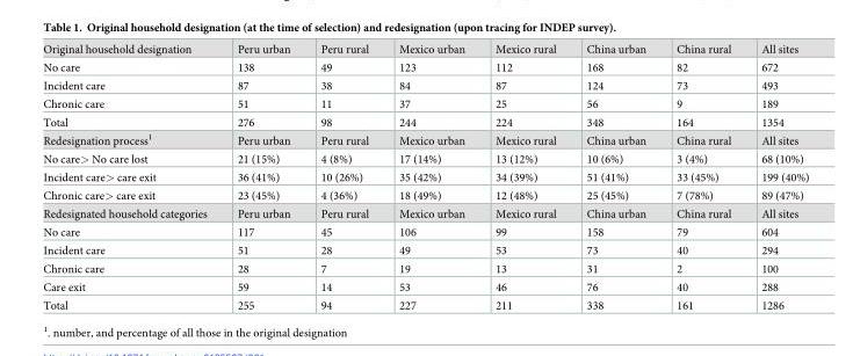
<table><tbody><tr><td>Original household designation</td><td>Peru urban</td><td>Peru rural</td><td>Mexico urban</td><td>Mexico rural</td><td>China urban</td><td>China rural</td><td>All sites</td></tr><tr><td>No care</td><td>138</td><td>49</td><td>123</td><td>112</td><td>168</td><td>82</td><td>672</td></tr><tr><td>Incident care</td><td>87</td><td>38</td><td>84</td><td>87</td><td>124</td><td>73</td><td>493</td></tr><tr><td>Chronic care</td><td>51</td><td>11</td><td>37</td><td>25</td><td>56</td><td>9</td><td>189</td></tr><tr><td>Total</td><td>276</td><td>98</td><td>244</td><td>224</td><td>348</td><td>164</td><td>1354</td></tr><tr><td>Redesignation process<sup>1</sup></td><td>Peru urban</td><td>Peru rural</td><td>Mexico urban</td><td>Mexico rural</td><td>China urban</td><td>China rural</td><td>All sites</td></tr><tr><td>No care&gt; No care lost</td><td>21 (15%)</td><td>4 (8%)</td><td>17 (14%)</td><td>13 (12%)</td><td>10 (6%)</td><td>3 (4%)</td><td>68 (10%)</td></tr><tr><td>Incident care&gt; care exit</td><td>36 (41%)</td><td>10 (26%)</td><td>35 (42%)</td><td>34 (39%)</td><td>51 (41%)</td><td>33 (45%)</td><td>199 (40%)</td></tr><tr><td>Chronic care&gt; care exit</td><td>23 (45%)</td><td>4 (36%)</td><td>18 (49%)</td><td>12 (48%)</td><td>25 (45%)</td><td>7 (78%)</td><td>89 (47%)</td></tr><tr><td>Redesignated household categories</td><td>Peru urban</td><td>Peru rural</td><td>Mexico urban</td><td>Mexico rural</td><td>China urban</td><td>China rural</td><td>All sites</td></tr><tr><td>No care</td><td>117</td><td>45</td><td>106</td><td>99</td><td>158</td><td>79</td><td>604</td></tr><tr><td>Incident care</td><td>51</td><td>28</td><td>49</td><td>53</td><td>73</td><td>40</td><td>294</td></tr><tr><td>Chronic care</td><td>28</td><td>7</td><td>19</td><td>13</td><td>31</td><td>2</td><td>100</td></tr><tr><td>Care exit</td><td>59</td><td>14</td><td>53</td><td>46</td><td>76</td><td>40</td><td>288</td></tr><tr><td>Total</td><td>255</td><td>94</td><td>227</td><td>211</td><td>338</td><td>161</td><td>1286</td></tr></tbody></table>